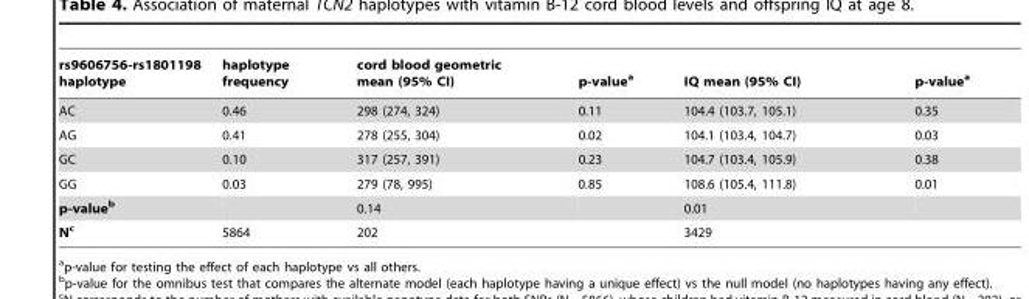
<table><thead><tr><td>rs9606756-rs1801198 haplotype</td><td>haplotype frequency</td><td>cord blood geometric mean (95% CI)</td><td>p-value<sup>a</sup></td><td>IQ mean (95% CI)</td><td>p-value<sup>a</sup></td></tr></thead><tbody><tr><td>AC</td><td>0.46</td><td>298 (274, 324)</td><td>0.11</td><td>104.4 (103.7, 105.1)</td><td>0.35</td></tr><tr><td>AG</td><td>0.41</td><td>278 (255, 304)</td><td>0.02</td><td>104.1 (103.4, 104.7)</td><td>0.03</td></tr><tr><td>GC</td><td>0.10</td><td>317 (257, 391)</td><td>0.23</td><td>104.7 (103.4, 105.9)</td><td>0.38</td></tr><tr><td>GG</td><td>0.03</td><td>279 (78, 995)</td><td>0.85</td><td>108.6 (105.4, 111.8)</td><td>0.01</td></tr><tr><td>p-valueb</td><td></td><td>0.14</td><td></td><td>0.01</td><td></td></tr><tr><td>Nc</td><td>5864</td><td>202</td><td></td><td>3429</td><td></td></tr></tbody></table>